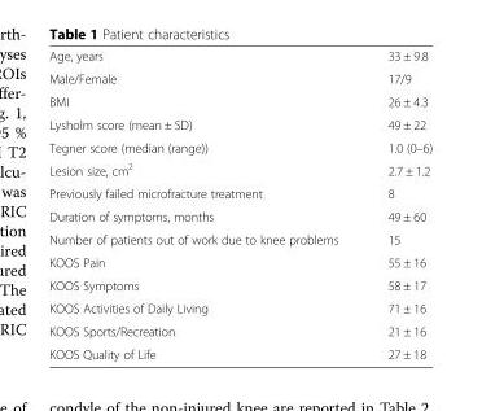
<table><tbody><tr><td>Age, years</td><td>33 ± 9.8</td></tr><tr><td>Male/Female</td><td>17/9</td></tr><tr><td>BMI</td><td>26 ± 4.3</td></tr><tr><td>Lysholm score (mean ± SD)</td><td>49 ± 22</td></tr><tr><td>Tegner score (median (range))</td><td>1.0 (0–6)</td></tr><tr><td>Lesion size, cm<sup>2</sup></td><td>2.7 ± 1.2</td></tr><tr><td>Previously failed microfracture treatment</td><td>8</td></tr><tr><td>Duration of symptoms, months</td><td>49 ± 60</td></tr><tr><td>Number of patients out of work due to knee problems</td><td>15</td></tr><tr><td>KOOS Pain</td><td>55 ± 16</td></tr><tr><td>KOOS Symptoms</td><td>58 ± 17</td></tr><tr><td>KOOS Activities of Daily Living</td><td>71 ± 16</td></tr><tr><td>KOOS Sports/Recreation</td><td>21 ± 16</td></tr><tr><td>KOOS Quality of Life</td><td>27 ± 18</td></tr></tbody></table>